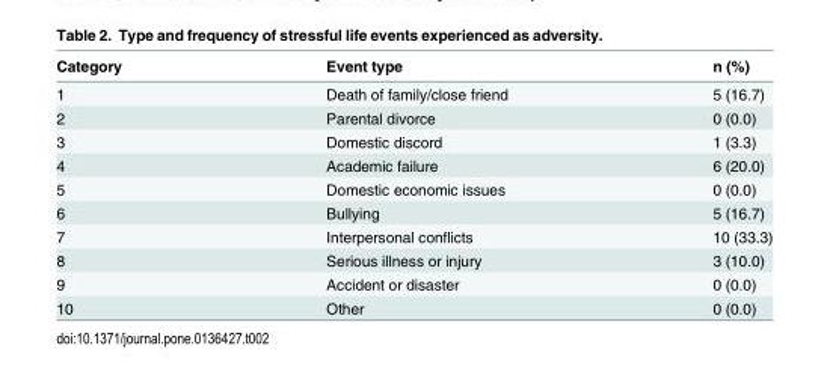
<table><thead><tr><td>Category</td><td>Event type</td><td>n (%)</td></tr></thead><tbody><tr><td>1</td><td>Death of family/close friend</td><td>5 (16.7)</td></tr><tr><td>2</td><td>Parental divorce</td><td>0 (0.0)</td></tr><tr><td>3</td><td>Domestic discord</td><td>1 (3.3)</td></tr><tr><td>4</td><td>Academic failure</td><td>6 (20.0)</td></tr><tr><td>5</td><td>Domestic economic issues</td><td>0 (0.0)</td></tr><tr><td>6</td><td>Bullying</td><td>5 (16.7)</td></tr><tr><td>7</td><td>Interpersonal conflicts</td><td>10 (33.3)</td></tr><tr><td>8</td><td>Serious illness or injury</td><td>3 (10.0)</td></tr><tr><td>9</td><td>Accident or disaster</td><td>0 (0.0)</td></tr><tr><td>10</td><td>Other</td><td>0 (0.0)</td></tr></tbody></table>